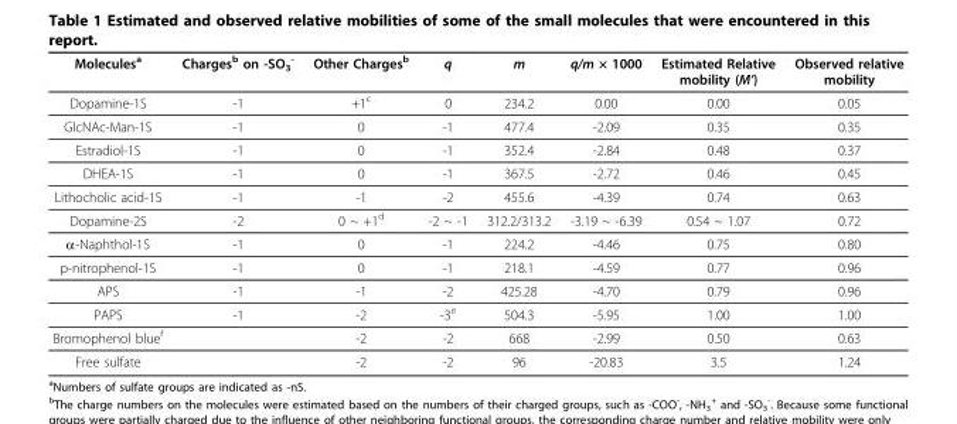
<table><thead><tr><td>Molecules<sup>a</sup></td><td>Charges<sup>b</sup> on -SO<sub>3</sub> <sup>-</sup></td><td>Other Charges<sup>b</sup></td><td>q</td><td>m</td><td>q/m × 1000</td><td>Estimated Relative mobility (M’)</td><td>Observed relative mobility</td></tr></thead><tbody><tr><td>Dopamine-1S</td><td>-1</td><td>+1<sup>c</sup></td><td>0</td><td>234.2</td><td>0.00</td><td>0.00</td><td>0.05</td></tr><tr><td>GlcNAc-Man-1S</td><td>-1</td><td>0</td><td>-1</td><td>477.4</td><td>-2.09</td><td>0.35</td><td>0.35</td></tr><tr><td>Estradiol-1S</td><td>-1</td><td>0</td><td>-1</td><td>352.4</td><td>-2.84</td><td>0.48</td><td>0.37</td></tr><tr><td>DHEA-1S</td><td>-1</td><td>0</td><td>-1</td><td>367.5</td><td>-2.72</td><td>0.46</td><td>0.45</td></tr><tr><td>Lithocholic acid-1S</td><td>-1</td><td>-1</td><td>-2</td><td>455.6</td><td>-4.39</td><td>0.74</td><td>0.63</td></tr><tr><td>Dopamine-2S</td><td>-2</td><td>0 ~ +1<sup>d</sup></td><td>-2 ~ -1</td><td>312.2/313.2</td><td>-3.19 ~ -6.39</td><td>0.54 ~ 1.07</td><td>0.72</td></tr><tr><td>α-Naphthol-1S</td><td>-1</td><td>0</td><td>-1</td><td>224.2</td><td>-4.46</td><td>0.75</td><td>0.80</td></tr><tr><td>p-nitrophenol-1S</td><td>-1</td><td>0</td><td>-1</td><td>218.1</td><td>-4.59</td><td>0.77</td><td>0.96</td></tr><tr><td>APS</td><td>-1</td><td>-1</td><td>-2</td><td>425.28</td><td>-4.70</td><td>0.79</td><td>0.96</td></tr><tr><td>PAPS</td><td>-1</td><td>-2</td><td>-3<sup>e</sup></td><td>504.3</td><td>-5.95</td><td>1.00</td><td>1.00</td></tr><tr><td>Bromophenol blue<sup>f</sup></td><td></td><td>-2</td><td>-2</td><td>668</td><td>-2.99</td><td>0.50</td><td>0.63</td></tr><tr><td>Free sulfate</td><td></td><td>-2</td><td>-2</td><td>96</td><td>-20.83</td><td>3.5</td><td>1.24</td></tr></tbody></table>